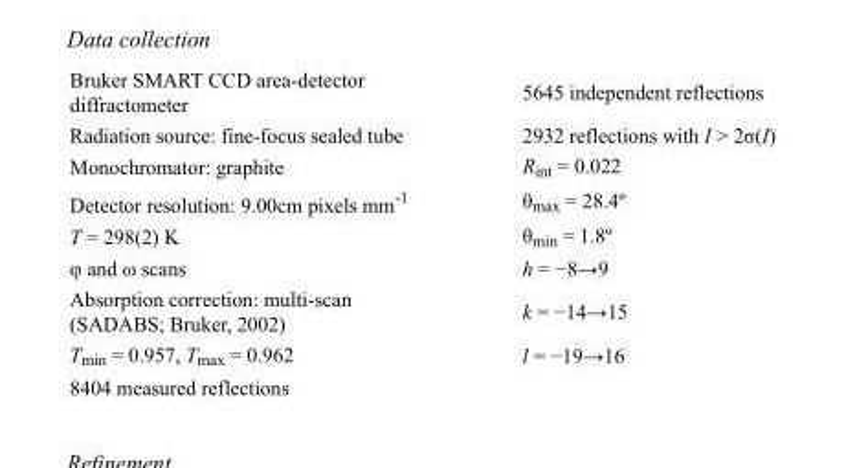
<table><tbody><tr><td>Bruker SMART CCD area-detector diffractometer</td><td>5645 independent reflections</td></tr><tr><td>Radiation source: fine-focus sealed tube</td><td>2932 reflections with I &gt; 2σ(I)</td></tr><tr><td>Monochromator: graphite</td><td>R<sub>int</sub> = 0.022</td></tr><tr><td>Detector resolution: 9.00cm pixels mm<sup>-1</sup></td><td>θ<sub>max</sub> = 28.4º</td></tr><tr><td>T = 298(2) K</td><td>θ<sub>min</sub> = 1.8º</td></tr><tr><td>φ and ω scans</td><td>h = −8→9</td></tr><tr><td>Absorption correction: multi-scan (SADABS; Bruker, 2002)</td><td>k = −14→15</td></tr><tr><td>T<sub>min</sub> = 0.957, T<sub>max</sub> = 0.962</td><td>l = −19→16</td></tr><tr><td>8404 measured reflections</td><td></td></tr></tbody></table>